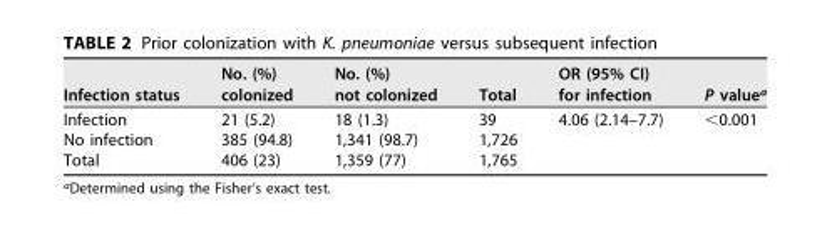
<table><thead><tr><td>Infection status</td><td>No. (%) colonized</td><td>No. (%) not colonized</td><td>Total</td><td>OR (95% CI) for infection</td><td>P value<sup>a</sup></td></tr></thead><tbody><tr><td>Infection</td><td>21 (5.2)</td><td>18 (1.3)</td><td>39</td><td rowspan="2">4.06 (2.14–7.7)</td><td rowspan="2">&lt;0.001</td></tr><tr><td>No infection</td><td>385 (94.8)</td><td>1,341 (98.7)</td><td>1,726</td></tr><tr><td>Total</td><td>406 (23)</td><td>1,359 (77)</td><td>1,765</td><td></td><td></td></tr></tbody></table>